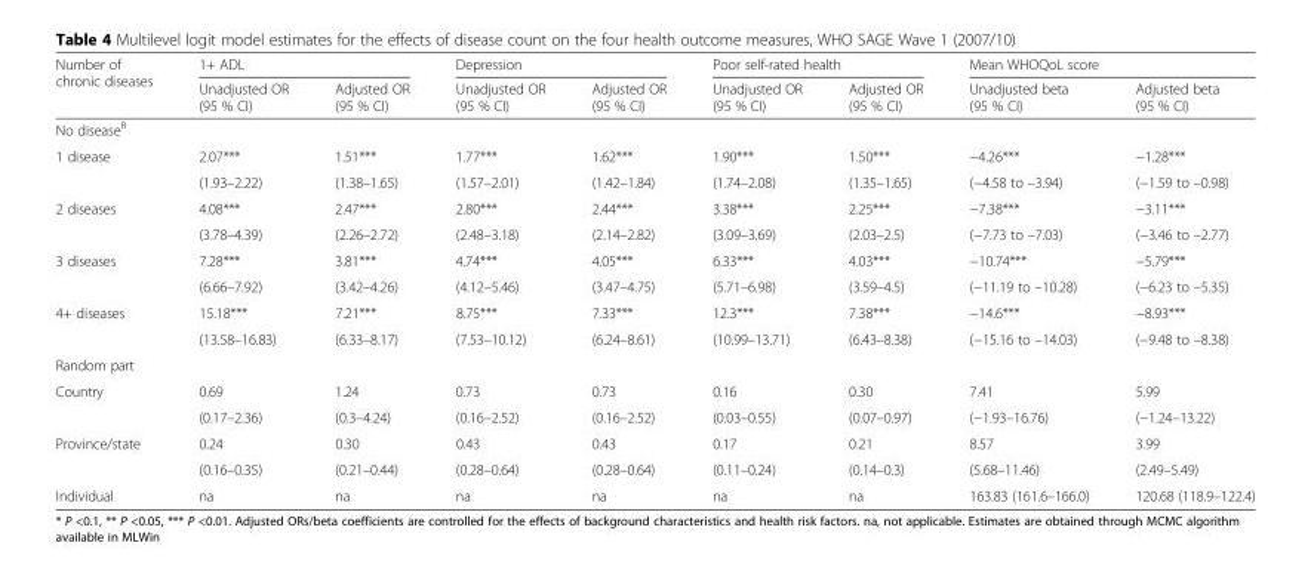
<table><thead><tr><td rowspan="2">Number of chronic diseases</td><td colspan="2">1+ ADL</td><td colspan="2">Depression</td><td colspan="2">Poor self-rated health</td><td colspan="2">Mean WHOQoL score</td></tr><tr><td>Unadjusted OR (95 % CI)</td><td>Adjusted OR (95 % CI)</td><td>Unadjusted OR (95 % CI)</td><td>Adjusted OR (95 % CI)</td><td>Unadjusted OR (95 % CI)</td><td>Adjusted OR (95 % CI)</td><td>Unadjusted beta (95 % CI)</td><td>Adjusted beta (95 % CI)</td></tr></thead><tbody><tr><td colspan="9">No disease<sup>R</sup></td></tr><tr><td rowspan="2">1 disease</td><td>2.07***</td><td>1.51***</td><td>1.77***</td><td>1.62***</td><td>1.90***</td><td>1.50***</td><td>−4.26***</td><td>−1.28***</td></tr><tr><td>(1.93–2.22)</td><td>(1.38–1.65)</td><td>(1.57–2.01)</td><td>(1.42–1.84)</td><td>(1.74–2.08)</td><td>(1.35–1.65)</td><td>(−4.58 to –3.94)</td><td>(−1.59 to –0.98)</td></tr><tr><td rowspan="2">2 diseases</td><td>4.08***</td><td>2.47***</td><td>2.80***</td><td>2.44***</td><td>3.38***</td><td>2.25***</td><td>−7.38***</td><td>−3.11***</td></tr><tr><td>(3.78–4.39)</td><td>(2.26–2.72)</td><td>(2.48–3.18)</td><td>(2.14–2.82)</td><td>(3.09–3.69)</td><td>(2.03–2.5)</td><td>(−7.73 to –7.03)</td><td>(−3.46 to –2.77)</td></tr><tr><td rowspan="2">3 diseases</td><td>7.28***</td><td>3.81***</td><td>4.74***</td><td>4.05***</td><td>6.33***</td><td>4.03***</td><td>−10.74***</td><td>−5.79***</td></tr><tr><td>(6.66–7.92)</td><td>(3.42–4.26)</td><td>(4.12–5.46)</td><td>(3.47–4.75)</td><td>(5.71–6.98)</td><td>(3.59–4.5)</td><td>(−11.19 to –10.28)</td><td>(−6.23 to –5.35)</td></tr><tr><td rowspan="2">4+ diseases</td><td>15.18***</td><td>7.21***</td><td>8.75***</td><td>7.33***</td><td>12.3***</td><td>7.38***</td><td>−14.6***</td><td>−8.93***</td></tr><tr><td>(13.58–16.83)</td><td>(6.33–8.17)</td><td>(7.53–10.12)</td><td>(6.24–8.61)</td><td>(10.99–13.71)</td><td>(6.43–8.38)</td><td>(−15.16 to –14.03)</td><td>(−9.48 to –8.38)</td></tr><tr><td colspan="9">Random part</td></tr><tr><td rowspan="2">Country</td><td>0.69</td><td>1.24</td><td>0.73</td><td>0.73</td><td>0.16</td><td>0.30</td><td>7.41</td><td>5.99</td></tr><tr><td>(0.17–2.36)</td><td>(0.3–4.24)</td><td>(0.16–2.52)</td><td>(0.16–2.52)</td><td>(0.03–0.55)</td><td>(0.07–0.97)</td><td>(−1.93–16.76)</td><td>(−1.24–13.22)</td></tr><tr><td rowspan="2">Province/state</td><td>0.24</td><td>0.30</td><td>0.43</td><td>0.43</td><td>0.17</td><td>0.21</td><td>8.57</td><td>3.99</td></tr><tr><td>(0.16–0.35)</td><td>(0.21–0.44)</td><td>(0.28–0.64)</td><td>(0.28–0.64)</td><td>(0.11–0.24)</td><td>(0.14–0.3)</td><td>(5.68–11.46)</td><td>(2.49–5.49)</td></tr><tr><td>Individual</td><td>na</td><td>na</td><td>na</td><td>na</td><td>na</td><td>na</td><td>163.83 (161.6–166.0)</td><td>120.68 (118.9–122.4)</td></tr></tbody></table>